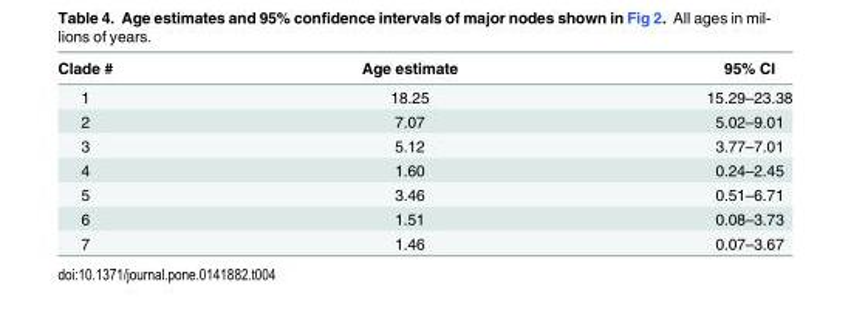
<table><thead><tr><td>Clade #</td><td>Age estimate</td><td>95% CI</td></tr></thead><tbody><tr><td>1</td><td>18.25</td><td>15.29–23.38</td></tr><tr><td>2</td><td>7.07</td><td>5.02–9.01</td></tr><tr><td>3</td><td>5.12</td><td>3.77–7.01</td></tr><tr><td>4</td><td>1.60</td><td>0.24–2.45</td></tr><tr><td>5</td><td>3.46</td><td>0.51–6.71</td></tr><tr><td>6</td><td>1.51</td><td>0.08–3.73</td></tr><tr><td>7</td><td>1.46</td><td>0.07–3.67</td></tr></tbody></table>